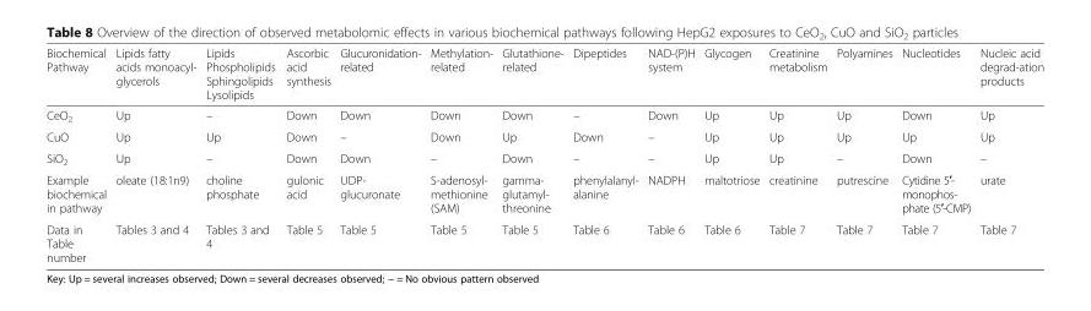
<table><thead><tr><td>Biochemical Pathway</td><td>Lipids fatty acids monoacyl- glycerols</td><td>Lipids Phospholipids Sphingolipids Lysolipids</td><td>Ascorbic acid synthesis</td><td>Glucuronidation- related</td><td>Methylation- related</td><td>Glutathione- related</td><td>Dipeptides</td><td>NAD-(P)H system</td><td>Glycogen</td><td>Creatinine metabolism</td><td>Polyamines</td><td>Nucleotides</td><td>Nucleic acid degrad-ation products</td></tr></thead><tbody><tr><td>CeO<sub>2</sub></td><td>Up</td><td>–</td><td>Down</td><td>Down</td><td>Down</td><td>Down</td><td>–</td><td>Down</td><td>Up</td><td>Up</td><td>Up</td><td>Down</td><td>Up</td></tr><tr><td>CuO</td><td>Up</td><td>Up</td><td>Down</td><td>–</td><td>Down</td><td>Up</td><td>Down</td><td>–</td><td>Up</td><td>Up</td><td>Up</td><td>Up</td><td>Up</td></tr><tr><td>SiO<sub>2</sub></td><td>Up</td><td>–</td><td>Down</td><td>Down</td><td>–</td><td>Down</td><td>–</td><td>–</td><td>Up</td><td>Up</td><td>–</td><td>Down</td><td>–</td></tr><tr><td>Example biochemical in pathway</td><td>oleate (18:1n9)</td><td>choline phosphate</td><td>gulonic acid</td><td>UDP- glucuronate</td><td>S-adenosyl- methionine (SAM)</td><td>gamma- glutamyl- threonine</td><td>phenylalanyl- alanine</td><td>NADPH</td><td>maltotriose</td><td>creatinine</td><td>putrescine</td><td>Cytidine 5′- monophos- phate (5′-CMP)</td><td>urate</td></tr><tr><td>Data in Table number</td><td>Tables 3 and 4</td><td>Tables 3 and 4</td><td>Table 5</td><td>Table 5</td><td>Table 5</td><td>Table 5</td><td>Table 6</td><td>Table 6</td><td>Table 6</td><td>Table 7</td><td>Table 7</td><td>Table 7</td><td>Table 7</td></tr></tbody></table>